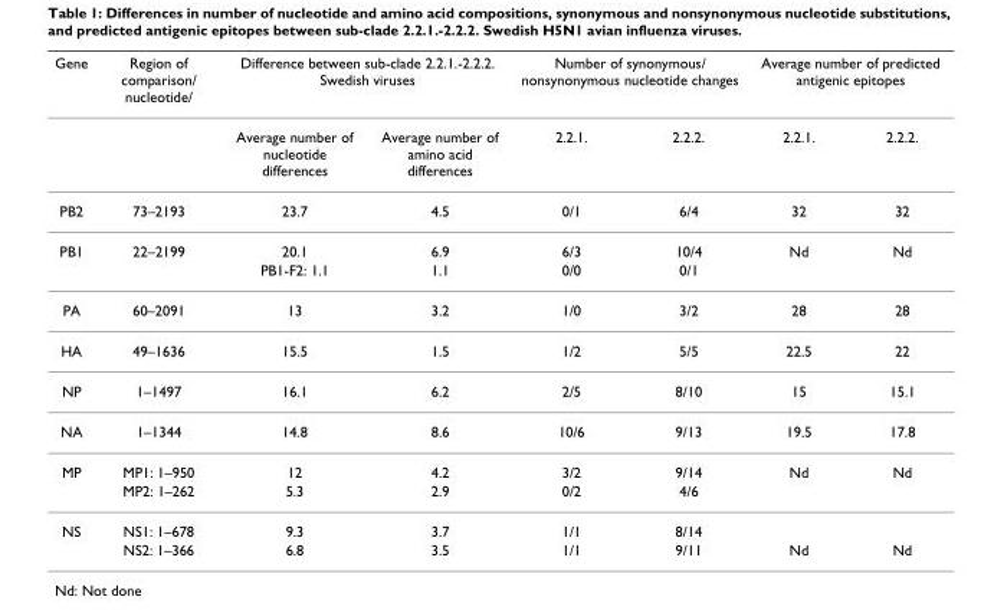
<table><thead><tr><td rowspan="2">Gene</td><td rowspan="2">Region of comparison/ nucleotide/</td><td colspan="2">Difference between sub-clade 2.2.1.-2.2.2. Swedish viruses</td><td colspan="2">Number of synonymous/ nonsynonymous nucleotide changes</td><td colspan="2">Average number of predicted antigenic epitopes</td></tr><tr><td>Average number of nucleotide differences</td><td>Average number of amino acid differences</td><td>2.2.1.</td><td>2.2.2.</td><td>2.2.1.</td><td>2.2.2.</td></tr></thead><tbody><tr><td>PB2</td><td>73–2193</td><td>23.7</td><td>4.5</td><td>0/1</td><td>6/4</td><td>32</td><td>32</td></tr><tr><td rowspan="2">PB1</td><td>22–2199</td><td>20.1</td><td>6.9</td><td>6/3</td><td>10/4</td><td>Nd</td><td>Nd</td></tr><tr><td></td><td>PB1-F2: 1.1</td><td>1.1</td><td>0/0</td><td>0/1</td><td></td><td></td></tr><tr><td>PA</td><td>60–2091</td><td>13</td><td>3.2</td><td>1/0</td><td>3/2</td><td>28</td><td>28</td></tr><tr><td>HA</td><td>49–1636</td><td>15.5</td><td>1.5</td><td>1/2</td><td>5/5</td><td>22.5</td><td>22</td></tr><tr><td>NP</td><td>1–1497</td><td>16.1</td><td>6.2</td><td>2/5</td><td>8/10</td><td>15</td><td>15.1</td></tr><tr><td>NA</td><td>1–1344</td><td>14.8</td><td>8.6</td><td>10/6</td><td>9/13</td><td>19.5</td><td>17.8</td></tr><tr><td rowspan="2">MP</td><td>MP1: 1–950</td><td>12</td><td>4.2</td><td>3/2</td><td>9/14</td><td>Nd</td><td>Nd</td></tr><tr><td>MP2: 1–262</td><td>5.3</td><td>2.9</td><td>0/2</td><td>4/6</td><td></td><td></td></tr><tr><td rowspan="2">NS</td><td>NS1: 1–678</td><td>9.3</td><td>3.7</td><td>1/1</td><td>8/14</td><td></td><td></td></tr><tr><td>NS2: 1–366</td><td>6.8</td><td>3.5</td><td>1/1</td><td>9/11</td><td>Nd</td><td>Nd</td></tr></tbody></table>